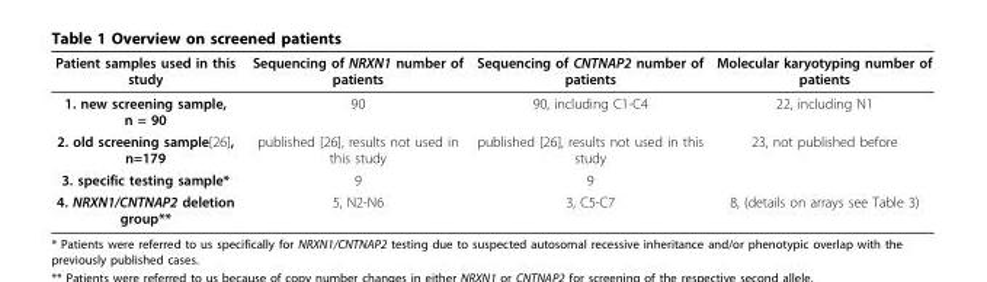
<table><thead><tr><td>Patient samples used in this study</td><td>Sequencing of NRXN1 number of patients</td><td>Sequencing of CNTNAP2 number of patients</td><td>Molecular karyotyping number of patients</td></tr></thead><tbody><tr><td>1. new screening sample, n = 90</td><td>90</td><td>90, including C1-C4</td><td>22, including N1</td></tr><tr><td>2. old screening sample[26], n=179</td><td>published [26], results not used in this study</td><td>published [26], results not used in this study</td><td>23, not published before</td></tr><tr><td>3. specific testing sample*</td><td>9</td><td>9</td><td></td></tr><tr><td>4. NRXN1/CNTNAP2 deletion group**</td><td>5, N2-N6</td><td>3, C5-C7</td><td>8, (details on arrays see Table 3)</td></tr></tbody></table>